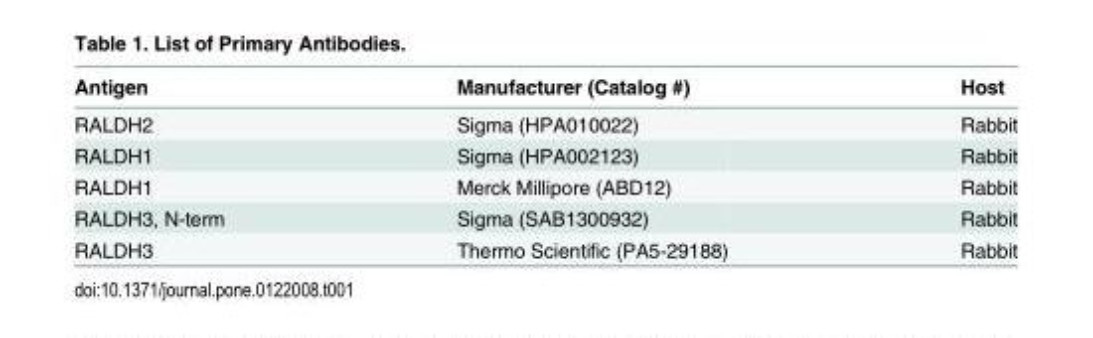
<table><thead><tr><td>Antigen</td><td>Manufacturer (Catalog #)</td><td>Host</td></tr></thead><tbody><tr><td>RALDH2</td><td>Sigma (HPA010022)</td><td>Rabbit</td></tr><tr><td>RALDH1</td><td>Sigma (HPA002123)</td><td>Rabbit</td></tr><tr><td>RALDH1</td><td>Merck Millipore (ABD12)</td><td>Rabbit</td></tr><tr><td>RALDH3, N-term</td><td>Sigma (SAB1300932)</td><td>Rabbit</td></tr><tr><td>RALDH3</td><td>Thermo Scientific (PA5-29188)</td><td>Rabbit</td></tr></tbody></table>